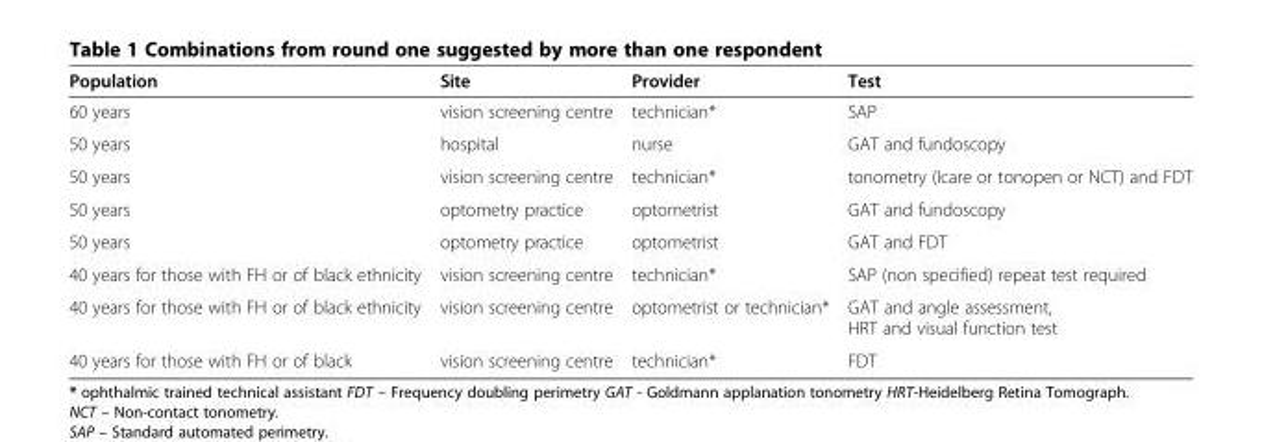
<table><thead><tr><td>Population</td><td>Site</td><td>Provider</td><td>Test</td></tr></thead><tbody><tr><td>60 years</td><td>vision screening centre</td><td>technician*</td><td>SAP</td></tr><tr><td>50 years</td><td>hospital</td><td>nurse</td><td>GAT and fundoscopy</td></tr><tr><td>50 years</td><td>vision screening centre</td><td>technician*</td><td>tonometry (Icare or tonopen or NCT) and FDT</td></tr><tr><td>50 years</td><td>optometry practice</td><td>optometrist</td><td>GAT and fundoscopy</td></tr><tr><td>50 years</td><td>optometry practice</td><td>optometrist</td><td>GAT and FDT</td></tr><tr><td>40 years for those with FH or of black ethnicity</td><td>vision screening centre</td><td>technician*</td><td>SAP (non specified) repeat test required</td></tr><tr><td>40 years for those with FH or of black ethnicity</td><td>vision screening centre</td><td>optometrist or technician*</td><td>GAT and angle assessment, HRT and visual function test</td></tr><tr><td>40 years for those with FH or of black</td><td>vision screening centre</td><td>technician*</td><td>FDT</td></tr></tbody></table>